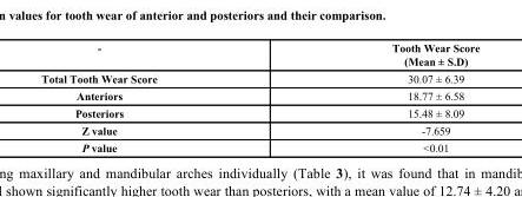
<table><thead><tr><td>-</td><td>Tooth Wear Score (Mean ± S.D)</td></tr></thead><tbody><tr><td>Total Tooth Wear Score</td><td>30.07 ± 6.39</td></tr><tr><td>Anteriors</td><td>18.77 ± 6.58</td></tr><tr><td>Posteriors</td><td>15.48 ± 8.09</td></tr><tr><td>Z value</td><td>-7.659</td></tr><tr><td>P value</td><td>&lt;0.01</td></tr></tbody></table>